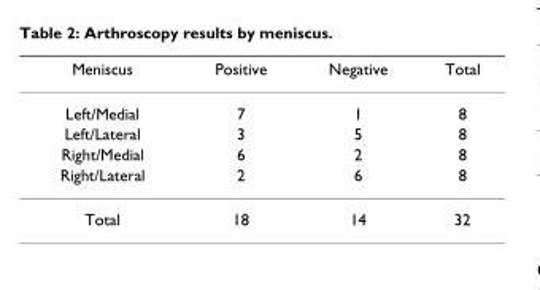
<table><thead><tr><td>Meniscus</td><td>Positive</td><td>Negative</td><td>Total</td></tr></thead><tbody><tr><td>Left/Medial</td><td>7</td><td>1</td><td>8</td></tr><tr><td>Left/Lateral</td><td>3</td><td>5</td><td>8</td></tr><tr><td>Right/Medial</td><td>6</td><td>2</td><td>8</td></tr><tr><td>Right/Lateral</td><td>2</td><td>6</td><td>8</td></tr><tr><td>Total</td><td>18</td><td>14</td><td>32</td></tr></tbody></table>